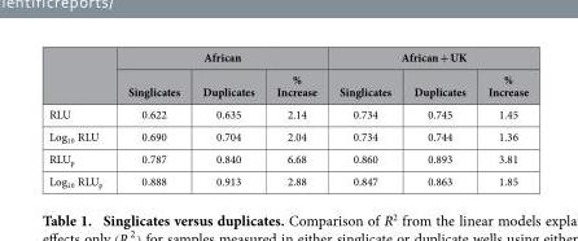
<table><thead><tr><td rowspan="2"></td><td colspan="3">African</td><td colspan="3">African + UK</td></tr><tr><td>Singlicates</td><td>Duplicates</td><td>% Increase</td><td>Singlicates</td><td>Duplicates</td><td>% Increase</td></tr></thead><tbody><tr><td>RLU</td><td>0.622</td><td>0.635</td><td>2.14</td><td>0.734</td><td>0.745</td><td>1.45</td></tr><tr><td>Log<sub>10</sub> RLU</td><td>0.690</td><td>0.704</td><td>2.04</td><td>0.734</td><td>0.744</td><td>1.36</td></tr><tr><td>RLU<sub>p</sub></td><td>0.787</td><td>0.840</td><td>6.68</td><td>0.860</td><td>0.893</td><td>3.81</td></tr><tr><td>Log<sub>10</sub> RLU<sub>p</sub></td><td>0.888</td><td>0.913</td><td>2.88</td><td>0.847</td><td>0.863</td><td>1.85</td></tr></tbody></table>